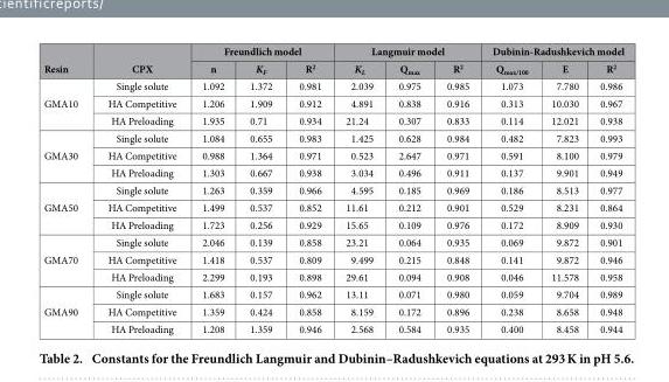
<table><thead><tr><td rowspan="2">Resin</td><td rowspan="2">CPX</td><td colspan="3">Freundlich model</td><td colspan="3">Langmuir model</td><td colspan="3">Dubinin-Radushkevich model</td></tr><tr><td>n</td><td>K<sub>F</sub></td><td>R<sup>2</sup></td><td>K<sub>L</sub></td><td>Q<sub>max</sub></td><td>R<sup>2</sup></td><td>Q<sub>max/100</sub></td><td>E</td><td>R<sup>2</sup></td></tr></thead><tbody><tr><td rowspan="3">GMA10</td><td>Single solute</td><td>1.092</td><td>1.372</td><td>0.981</td><td>2.039</td><td>0.975</td><td>0.985</td><td>1.073</td><td>7.780</td><td>0.986</td></tr><tr><td>HA Competitive</td><td>1.206</td><td>1.909</td><td>0.912</td><td>4.891</td><td>0.838</td><td>0.916</td><td>0.313</td><td>10.030</td><td>0.967</td></tr><tr><td>HA Preloading</td><td>1.935</td><td>0.71</td><td>0.934</td><td>21.24</td><td>0.307</td><td>0.833</td><td>0.114</td><td>12.021</td><td>0.938</td></tr><tr><td rowspan="3">GMA30</td><td>Single solute</td><td>1.084</td><td>0.655</td><td>0.983</td><td>1.425</td><td>0.628</td><td>0.984</td><td>0.482</td><td>7.823</td><td>0.993</td></tr><tr><td>HA Competitive</td><td>0.988</td><td>1.364</td><td>0.971</td><td>0.523</td><td>2.647</td><td>0.971</td><td>0.591</td><td>8.100</td><td>0.979</td></tr><tr><td>HA Preloading</td><td>1.303</td><td>0.667</td><td>0.938</td><td>3.034</td><td>0.496</td><td>0.911</td><td>0.137</td><td>9.901</td><td>0.949</td></tr><tr><td rowspan="3">GMA50</td><td>Single solute</td><td>1.263</td><td>0.359</td><td>0.966</td><td>4.595</td><td>0.185</td><td>0.969</td><td>0.186</td><td>8.513</td><td>0.977</td></tr><tr><td>HA Competitive</td><td>1.499</td><td>0.537</td><td>0.852</td><td>11.61</td><td>0.212</td><td>0.901</td><td>0.529</td><td>8.231</td><td>0.864</td></tr><tr><td>HA Preloading</td><td>1.723</td><td>0.256</td><td>0.929</td><td>15.65</td><td>0.109</td><td>0.976</td><td>0.172</td><td>8.909</td><td>0.930</td></tr><tr><td rowspan="3">GMA70</td><td>Single solute</td><td>2.046</td><td>0.139</td><td>0.858</td><td>23.21</td><td>0.064</td><td>0.935</td><td>0.069</td><td>9.872</td><td>0.901</td></tr><tr><td>HA Competitive</td><td>1.418</td><td>0.537</td><td>0.809</td><td>9.499</td><td>0.215</td><td>0.848</td><td>0.141</td><td>9.872</td><td>0.946</td></tr><tr><td>HA Preloading</td><td>2.299</td><td>0.193</td><td>0.898</td><td>29.61</td><td>0.094</td><td>0.908</td><td>0.046</td><td>11.578</td><td>0.958</td></tr><tr><td rowspan="3">GMA90</td><td>Single solute</td><td>1.683</td><td>0.157</td><td>0.962</td><td>13.11</td><td>0.071</td><td>0.980</td><td>0.059</td><td>9.704</td><td>0.989</td></tr><tr><td>HA Competitive</td><td>1.359</td><td>0.424</td><td>0.858</td><td>8.159</td><td>0.172</td><td>0.896</td><td>0.238</td><td>8.658</td><td>0.948</td></tr><tr><td>HA Preloading</td><td>1.208</td><td>1.359</td><td>0.946</td><td>2.568</td><td>0.584</td><td>0.935</td><td>0.400</td><td>8.458</td><td>0.944</td></tr></tbody></table>